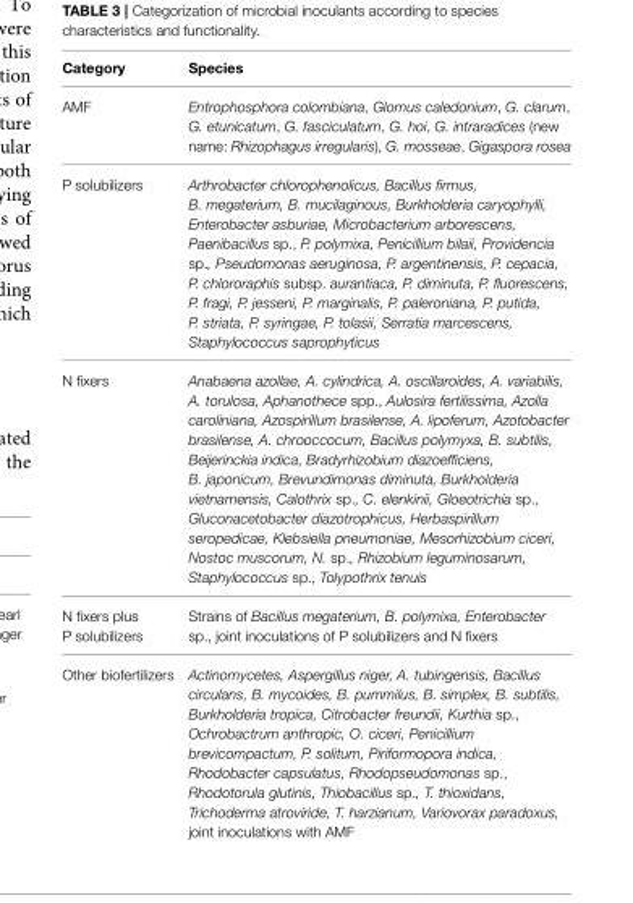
<table><thead><tr><td>Category</td><td>Species</td></tr></thead><tbody><tr><td>AMF</td><td>Entrophosphora colombiana, Glomus caledonium, G. clarum, G. etunicatum, G. fasciculatum, G. hoi, G. intraradices (new name: Rhizophagus irregularis), G. mosseae, Gigaspora rosea</td></tr><tr><td>P solubilizers</td><td>Arthrobacter chlorophenolicus, Bacillus firmus, B. megaterium, B. mucilaginous, Burkholderia caryophylli, Enterobacter asburiae, Microbacterium arborescens, Paenibacillus sp., P. polymixa, Penicillium bilaii, Providencia sp., Pseudomonas aeruginosa, P. argentinensis, P. cepacia, P. chlororaphis subsp. aurantiaca, P. diminuta, P. fluorescens, P. fragi, P. jesseni, P. marginalis, P. paleroniana, P. putida, P. striata, P. syringae, P. tolasii, Serratia marcescens, Staphylococcus saprophyticus</td></tr><tr><td>N fixers</td><td>Anabaena azollae, A. cylindrica, A. oscillaroides, A. variabilis, A. torulosa, Aphanothece spp., Aulosira fertilissima, Azolla caroliniana, Azospirillum brasilense, A. lipoferum, Azotobacter brasilense, A. chrooccocum, Bacillus polymyxa, B. subtilis, Beijerinckia indica, Bradyrhizobium diazoefficiens, B. japonicum, Brevundimonas diminuta, Burkholderia vietnamensis, Calothrix sp., C. elenkinii, Gloeotrichia sp., Gluconacetobacter diazotrophicus, Herbaspirillum seropedicae, Klebsiella pneumoniae, Mesorhizobium ciceri, Nostoc muscorum, N. sp., Rhizobium leguminosarum, Staphylococcus sp., Tolypothrix tenuis</td></tr><tr><td>N fixers plus P solubilizers</td><td>Strains of Bacillus megaterium, B. polymixa, Enterobacter sp., joint inoculations of P solubilizers and N fixers</td></tr><tr><td>Other biofertilizers</td><td>Actinomycetes, Aspergillus niger, A. tubingensis, Bacillus circulans, B. mycoides, B. pummilus, B. simplex, B. subtilis, Burkholderia tropica, Citrobacter freundii, Kurthia sp., Ochrobactrum anthropic, O. ciceri, Penicillium brevicompactum, P. solitum, Piriformopora indica, Rhodobacter capsulatus, Rhodopseudomonas sp., Rhodotorula glutinis, Thiobacillus sp., T. thioxidans, Trichoderma atroviride, T. harzianum, Variovorax paradoxus, joint inoculations with AMF</td></tr></tbody></table>